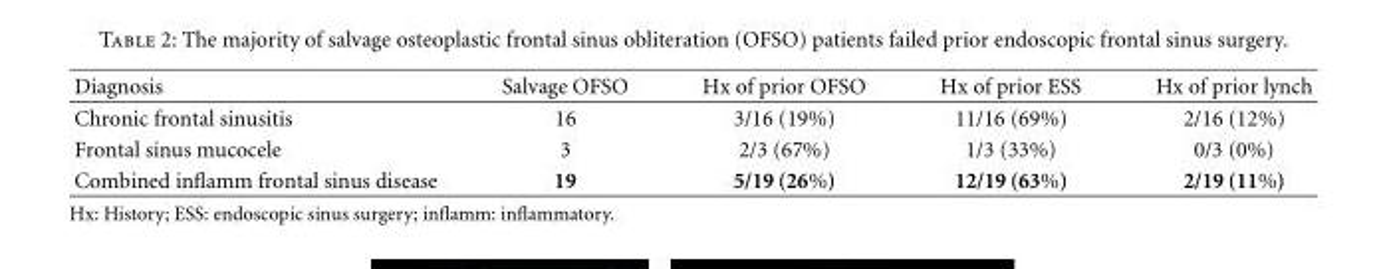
<table><thead><tr><td>Diagnosis</td><td>Salvage OFSO</td><td>Hx of prior OFSO</td><td>Hx of prior ESS</td><td>Hx of prior lynch</td></tr></thead><tbody><tr><td>Chronic frontal sinusitis</td><td>16</td><td>3/16 (19%)</td><td>11/16 (69%)</td><td>2/16 (12%)</td></tr><tr><td>Frontal sinus mucocele</td><td>3</td><td>2/3 (67%)</td><td>1/3 (33%)</td><td>0/3 (0%)</td></tr><tr><td>Combined inflamm frontal sinus disease</td><td>19</td><td>5/19 (26%)</td><td>12/19 (63%)</td><td>2/19 (11%)</td></tr></tbody></table>